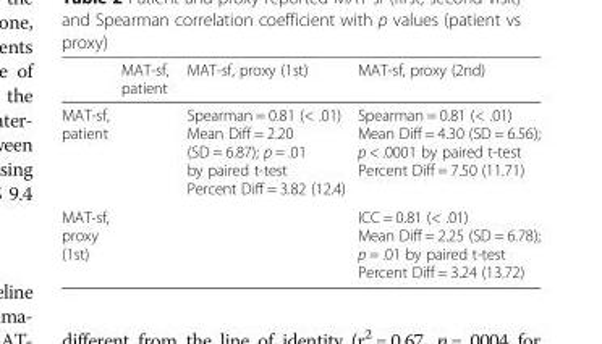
<table><thead><tr><td></td><td>MAT-sf, patient</td><td>MAT-sf, proxy (1st)</td><td>MAT-sf, proxy (2nd)</td></tr></thead><tbody><tr><td>MAT-sf, patient</td><td></td><td>Spearman = 0.81 (&lt; .01) Mean Diff = 2.20 (SD = 6.87); p = .01 by paired t-test Percent Diff = 3.82 (12.4)</td><td>Spearman = 0.81 (&lt; .01) Mean Diff = 4.30 (SD = 6.56); p &lt; .0001 by paired t-test Percent Diff = 7.50 (11.71)</td></tr><tr><td>MAT-sf, proxy (1st)</td><td></td><td></td><td>ICC = 0.81 (&lt; .01) Mean Diff = 2.25 (SD = 6.78); p = .01 by paired t-test Percent Diff = 3.24 (13.72)</td></tr></tbody></table>